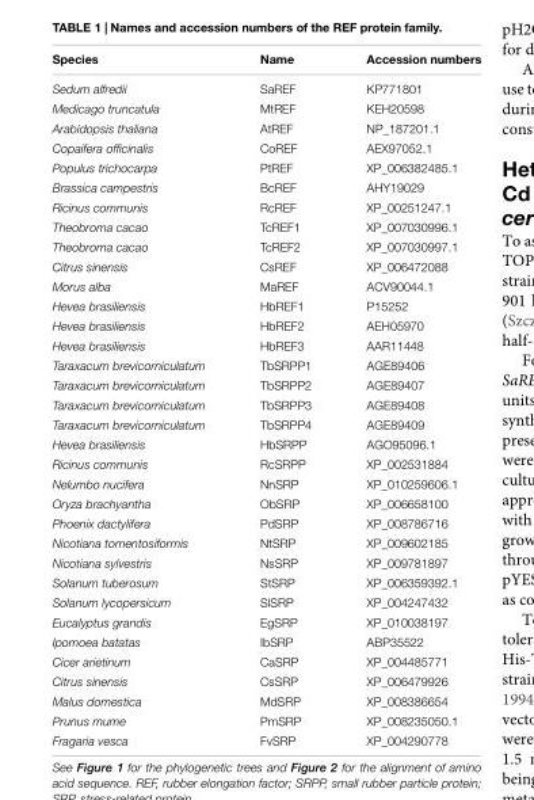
<table><thead><tr><td>Species</td><td>Name</td><td>Accession numbers</td></tr></thead><tbody><tr><td>Sedum alfredii</td><td>SaREF</td><td>KP771801</td></tr><tr><td>Medicago truncatula</td><td>MtREF</td><td>KEH20598</td></tr><tr><td>Arabidopsis thaliana</td><td>AtREF</td><td>NP_187201.1</td></tr><tr><td>Copaifera officinalis</td><td>CoREF</td><td>AEX97052.1</td></tr><tr><td>Populus trichocarpa</td><td>PtREF</td><td>XP_006382485.1</td></tr><tr><td>Brassica campestris</td><td>BcREF</td><td>AHY19029</td></tr><tr><td>Ricinus communis</td><td>RcREF</td><td>XP_00251247.1</td></tr><tr><td>Theobroma cacao</td><td>TcREF1</td><td>XP_007030996.1</td></tr><tr><td>Theobroma cacao</td><td>TcREF2</td><td>XP_007030997.1</td></tr><tr><td>Citrus sinensis</td><td>CsREF</td><td>XP_006472088</td></tr><tr><td>Morus alba</td><td>MaREF</td><td>ACV90044.1</td></tr><tr><td>Hevea brasiliensis</td><td>HbREF1</td><td>P15252</td></tr><tr><td>Hevea brasiliensis</td><td>HbREF2</td><td>AEH05970</td></tr><tr><td>Hevea brasiliensis</td><td>HbREF3</td><td>AAR11448</td></tr><tr><td>Taraxacum brevicorniculatum</td><td>TbSRPP1</td><td>AGE89406</td></tr><tr><td>Taraxacum brevicorniculatum</td><td>TbSRPP2</td><td>AGE89407</td></tr><tr><td>Taraxacum brevicorniculatum</td><td>TbSRPP3</td><td>AGE89408</td></tr><tr><td>Taraxacum brevicorniculatum</td><td>TbSRPP4</td><td>AGE89409</td></tr><tr><td>Hevea brasiliensis</td><td>HbSRPP</td><td>AGO95096.1</td></tr><tr><td>Ricinus communis</td><td>RcSRPP</td><td>XP_002531884</td></tr><tr><td>Nelumbo nucifera</td><td>NnSRP</td><td>XP_010259606.1</td></tr><tr><td>Oryza brachyantha</td><td>ObSRP</td><td>XP_006658100</td></tr><tr><td>Phoenix dactylifera</td><td>PdSRP</td><td>XP_008786716</td></tr><tr><td>Nicotiana tomentosiformis</td><td>NtSRP</td><td>XP_009602185</td></tr><tr><td>Nicotiana sylvestris</td><td>NsSRP</td><td>XP_009781897</td></tr><tr><td>Solanum tuberosum</td><td>StSRP</td><td>XP_006359392.1</td></tr><tr><td>Solanum lycopersicum</td><td>SlSRP</td><td>XP_004247432</td></tr><tr><td>Eucalyptus grandis</td><td>EgSRP</td><td>XP_010038197</td></tr><tr><td>Ipomoea batatas</td><td>IbSRP</td><td>ABP35522</td></tr><tr><td>Cicer arietinum</td><td>CaSRP</td><td>XP_004485771</td></tr><tr><td>Citrus sinensis</td><td>CsSRP</td><td>XP_006479926</td></tr><tr><td>Malus domestica</td><td>MdSRP</td><td>XP_008386654</td></tr><tr><td>Prunus mume</td><td>PmSRP</td><td>XP_008235050.1</td></tr><tr><td>Fragaria vesca</td><td>FvSRP</td><td>XP_004290778</td></tr></tbody></table>